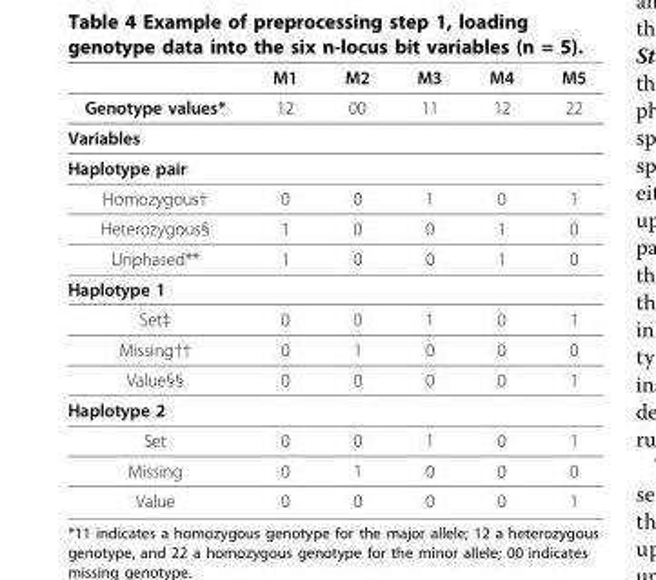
<table><thead><tr><td></td><td>M1</td><td>M2</td><td>M3</td><td>M4</td><td>M5</td></tr></thead><tbody><tr><td>Genotype values*</td><td>12</td><td>00</td><td>11</td><td>12</td><td>22</td></tr><tr><td colspan="6">Variables</td></tr><tr><td colspan="6">Haplotype pair</td></tr><tr><td>Homozygous†</td><td>0</td><td>0</td><td>1</td><td>0</td><td>1</td></tr><tr><td>Heterozygous§</td><td>1</td><td>0</td><td>0</td><td>1</td><td>0</td></tr><tr><td>Unphased**</td><td>1</td><td>0</td><td>0</td><td>1</td><td>0</td></tr><tr><td colspan="6">Haplotype 1</td></tr><tr><td>Set‡</td><td>0</td><td>0</td><td>1</td><td>0</td><td>1</td></tr><tr><td>Missing††</td><td>0</td><td>1</td><td>0</td><td>0</td><td>0</td></tr><tr><td>Value§§</td><td>0</td><td>0</td><td>0</td><td>0</td><td>1</td></tr><tr><td colspan="6">Haplotype 2</td></tr><tr><td>Set</td><td>0</td><td>0</td><td>1</td><td>0</td><td>1</td></tr><tr><td>Missing</td><td>0</td><td>1</td><td>0</td><td>0</td><td>0</td></tr><tr><td>Value</td><td>0</td><td>0</td><td>0</td><td>0</td><td>1</td></tr></tbody></table>